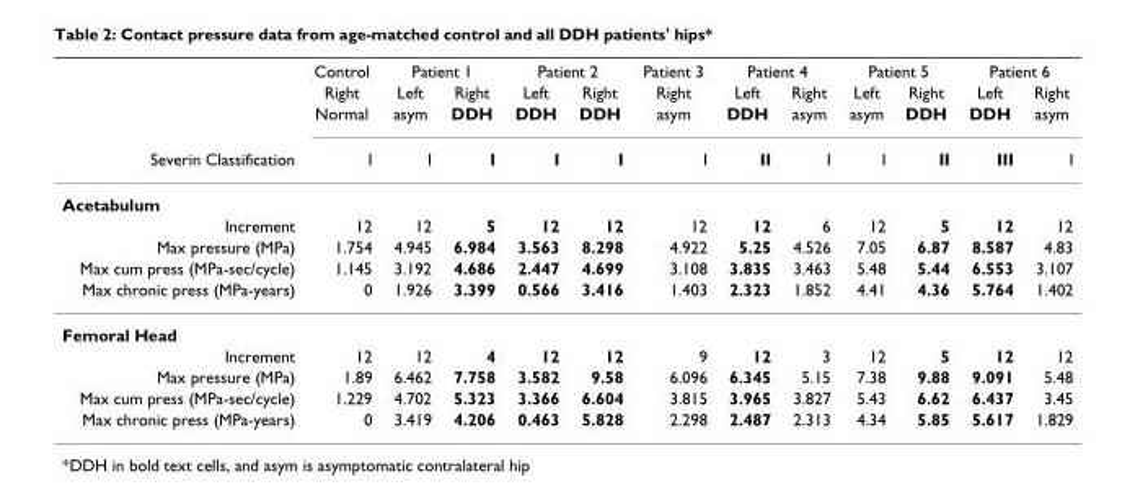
<table><thead><tr><td rowspan="4">Severin Classification</td><td rowspan="4">Control Right Normal I</td><td colspan="2">Patient 1</td><td colspan="2">Patient 2</td><td rowspan="4">Patient 3 Right asym I</td><td colspan="2">Patient 4</td><td colspan="2">Patient 5</td><td colspan="2">Patient 6</td></tr><tr><td rowspan="3">Left asym I</td><td rowspan="3">Right DDH I</td><td rowspan="3">Left DDH I</td><td rowspan="3">Right DDH I</td><td rowspan="3">Left DDH II</td><td rowspan="3">Right asym I</td><td rowspan="3">Left asym I</td><td rowspan="3">Right DDH II</td><td rowspan="3">Left DDH III</td><td rowspan="3">Right asym I</td></tr><tr></tr><tr></tr></thead><tbody><tr><td colspan="13">Acetabulum</td></tr><tr><td>Increment</td><td>12</td><td>12</td><td>5</td><td>12</td><td>12</td><td>12</td><td>12</td><td>6</td><td>12</td><td>5</td><td>12</td><td>12</td></tr><tr><td>Max pressure (MPa)</td><td>1.754</td><td>4.945</td><td>6.984</td><td>3.563</td><td>8.298</td><td>4.922</td><td>5.25</td><td>4.526</td><td>7.05</td><td>6.87</td><td>8.587</td><td>4.83</td></tr><tr><td>Max cum press (MPa-sec/cycle)</td><td>1.145</td><td>3.192</td><td>4.686</td><td>2.447</td><td>4.699</td><td>3.108</td><td>3.835</td><td>3.463</td><td>5.48</td><td>5.44</td><td>6.553</td><td>3.107</td></tr><tr><td>Max chronic press (MPa-years)</td><td>0</td><td>1.926</td><td>3.399</td><td>0.566</td><td>3.416</td><td>1.403</td><td>2.323</td><td>1.852</td><td>4.41</td><td>4.36</td><td>5.764</td><td>1.402</td></tr><tr><td colspan="13">Femoral Head</td></tr><tr><td>Increment</td><td>12</td><td>12</td><td>4</td><td>12</td><td>12</td><td>9</td><td>12</td><td>3</td><td>12</td><td>5</td><td>12</td><td>12</td></tr><tr><td>Max pressure (MPa)</td><td>1.89</td><td>6.462</td><td>7.758</td><td>3.582</td><td>9.58</td><td>6.096</td><td>6.345</td><td>5.15</td><td>7.38</td><td>9.88</td><td>9.091</td><td>5.48</td></tr><tr><td>Max cum press (MPa-sec/cycle)</td><td>1.229</td><td>4.702</td><td>5.323</td><td>3.366</td><td>6.604</td><td>3.815</td><td>3.965</td><td>3.827</td><td>5.43</td><td>6.62</td><td>6.437</td><td>3.45</td></tr><tr><td>Max chronic press (MPa-years)</td><td>0</td><td>3.419</td><td>4.206</td><td>0.463</td><td>5.828</td><td>2.298</td><td>2.487</td><td>2.313</td><td>4.34</td><td>5.85</td><td>5.617</td><td>1.829</td></tr></tbody></table>